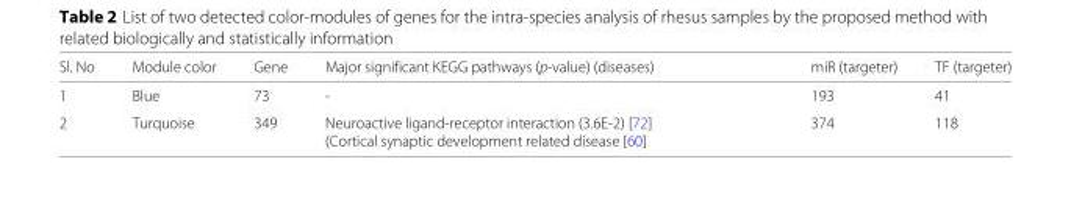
<table><thead><tr><td>Sl. No</td><td>Module color</td><td>Gene</td><td>Major significant KEGG pathways (p-value) (diseases)</td><td>miR (targeter)</td><td>TF (targeter)</td></tr></thead><tbody><tr><td>1</td><td>Blue</td><td>73</td><td>-</td><td>193</td><td>41</td></tr><tr><td>2</td><td>Turquoise</td><td>349</td><td>Neuroactive ligand-receptor interaction (3.6E-2) [72] (Cortical synaptic development related disease [60]</td><td>374</td><td>118</td></tr></tbody></table>